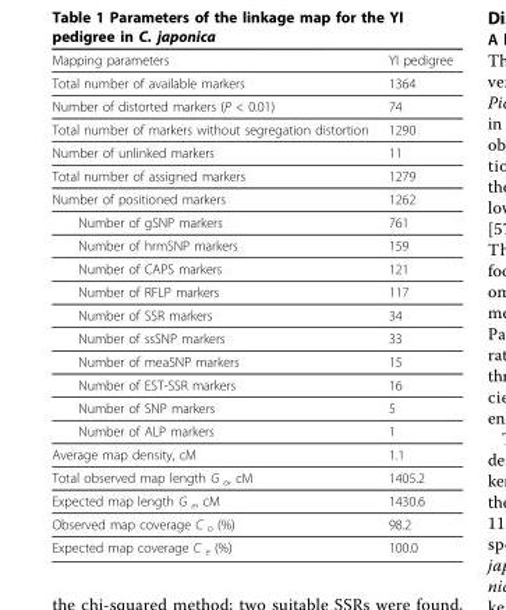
<table><thead><tr><td>Mapping parameters</td><td>YI pedigree</td></tr></thead><tbody><tr><td>Total number of available markers</td><td>1364</td></tr><tr><td>Number of distorted markers (P &lt; 0.01)</td><td>74</td></tr><tr><td>Total number of markers without segregation distortion</td><td>1290</td></tr><tr><td>Number of unlinked markers</td><td>11</td></tr><tr><td>Total number of assigned markers</td><td>1279</td></tr><tr><td>Number of positioned markers</td><td>1262</td></tr><tr><td>Number of gSNP markers</td><td>761</td></tr><tr><td>Number of hrmSNP markers</td><td>159</td></tr><tr><td>Number of CAPS markers</td><td>121</td></tr><tr><td>Number of RFLP markers</td><td>117</td></tr><tr><td>Number of SSR markers</td><td>34</td></tr><tr><td>Number of ssSNP markers</td><td>33</td></tr><tr><td>Number of meaSNP markers</td><td>15</td></tr><tr><td>Number of EST-SSR markers</td><td>16</td></tr><tr><td>Number of SNP markers</td><td>5</td></tr><tr><td>Number of ALP markers</td><td>1</td></tr><tr><td>Average map density, cM</td><td>1.1</td></tr><tr><td>Total observed map length G <sub>o</sub>, cM</td><td>1405.2</td></tr><tr><td>Expected map length G <sub>e</sub>, cM</td><td>1430.6</td></tr><tr><td>Observed map coverage C <sub>o</sub> (%)</td><td>98.2</td></tr><tr><td>Expected map coverage C <sub>e</sub> (%)</td><td>100.0</td></tr></tbody></table>